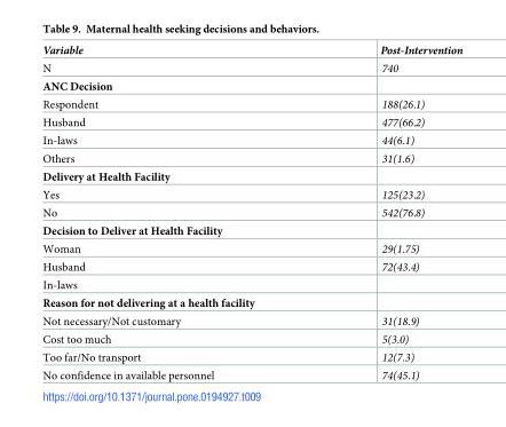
<table><thead><tr><td>Variable</td><td>Post-Intervention</td></tr></thead><tbody><tr><td>N</td><td>740</td></tr><tr><td colspan="2">ANC Decision</td></tr><tr><td>Respondent</td><td>188(26.1)</td></tr><tr><td>Husband</td><td>477(66.2)</td></tr><tr><td>In-laws</td><td>44(6.1)</td></tr><tr><td>Others</td><td>31(1.6)</td></tr><tr><td colspan="2">Delivery at Health Facility</td></tr><tr><td>Yes</td><td>125(23.2)</td></tr><tr><td>No</td><td>542(76.8)</td></tr><tr><td colspan="2">Decision to Deliver at Health Facility</td></tr><tr><td>Woman</td><td>29(1.75)</td></tr><tr><td>Husband</td><td>72(43.4)</td></tr><tr><td colspan="2">In-laws</td></tr><tr><td colspan="2">Reason for not delivering at a health facility</td></tr><tr><td>Not necessary/Not customary</td><td>31(18.9)</td></tr><tr><td>Cost too much</td><td>5(3.0)</td></tr><tr><td>Too far/No transport</td><td>12(7.3)</td></tr><tr><td>No confidence in available personnel</td><td>74(45.1)</td></tr></tbody></table>